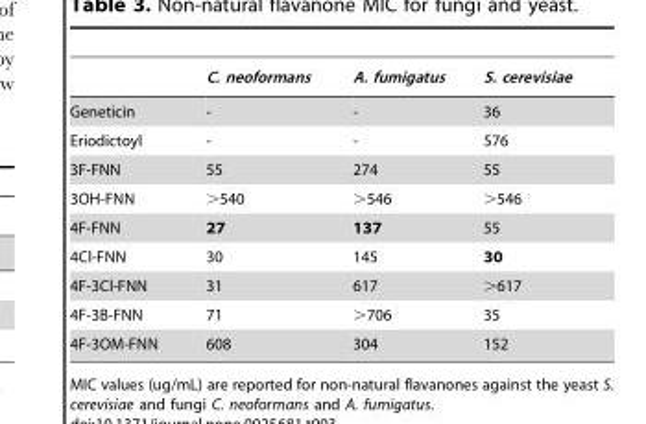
<table><thead><tr><td></td><td>C. neoformans</td><td>A. fumigatus</td><td>S. cerevisiae</td></tr></thead><tbody><tr><td>Geneticin</td><td>-</td><td>-</td><td>36</td></tr><tr><td>Eriodictoyl</td><td>-</td><td>-</td><td>576</td></tr><tr><td>3F-FNN</td><td>55</td><td>274</td><td>55</td></tr><tr><td>3OH-FNN</td><td>&gt;540</td><td>&gt;546</td><td>&gt;546</td></tr><tr><td>4F-FNN</td><td>27</td><td>137</td><td>55</td></tr><tr><td>4Cl-FNN</td><td>30</td><td>145</td><td>30</td></tr><tr><td>4F-3Cl-FNN</td><td>31</td><td>617</td><td>&gt;617</td></tr><tr><td>4F-3B-FNN</td><td>71</td><td>&gt;706</td><td>35</td></tr><tr><td>4F-3OM-FNN</td><td>608</td><td>304</td><td>152</td></tr></tbody></table>